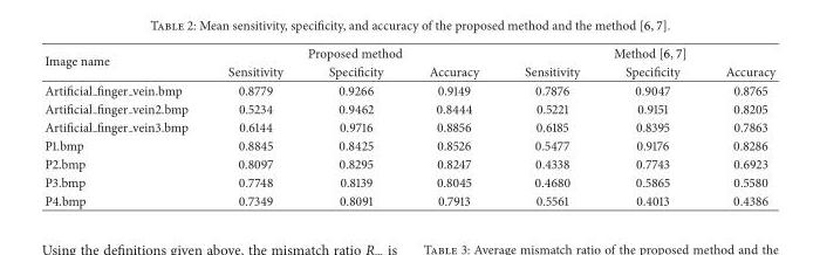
<table><thead><tr><td rowspan="2">Image name</td><td colspan="3">Proposed method</td><td colspan="3">Method [6, 7]</td></tr><tr><td>Sensitivity</td><td>Specificity</td><td>Accuracy</td><td>Sensitivity</td><td>Specificity</td><td>Accuracy</td></tr></thead><tbody><tr><td>Artificial <sub>finger</sub> vein.bmp</td><td>0.8779</td><td>0.9266</td><td>0.9149</td><td>0.7876</td><td>0.9047</td><td>0.8765</td></tr><tr><td>Artificial <sub>finger</sub> vein2.bmp</td><td>0.5234</td><td>0.9462</td><td>0.8444</td><td>0.5221</td><td>0.9151</td><td>0.8205</td></tr><tr><td>Artificial <sub>finger</sub> vein3.bmp</td><td>0.6144</td><td>0.9716</td><td>0.8856</td><td>0.6185</td><td>0.8395</td><td>0.7863</td></tr><tr><td>P1.bmp</td><td>0.8845</td><td>0.8425</td><td>0.8526</td><td>0.5477</td><td>0.9176</td><td>0.8286</td></tr><tr><td>P2.bmp</td><td>0.8097</td><td>0.8295</td><td>0.8247</td><td>0.4338</td><td>0.7743</td><td>0.6923</td></tr><tr><td>P3.bmp</td><td>0.7748</td><td>0.8139</td><td>0.8045</td><td>0.4680</td><td>0.5865</td><td>0.5580</td></tr><tr><td>P4.bmp</td><td>0.7349</td><td>0.8091</td><td>0.7913</td><td>0.5561</td><td>0.4013</td><td>0.4386</td></tr></tbody></table>